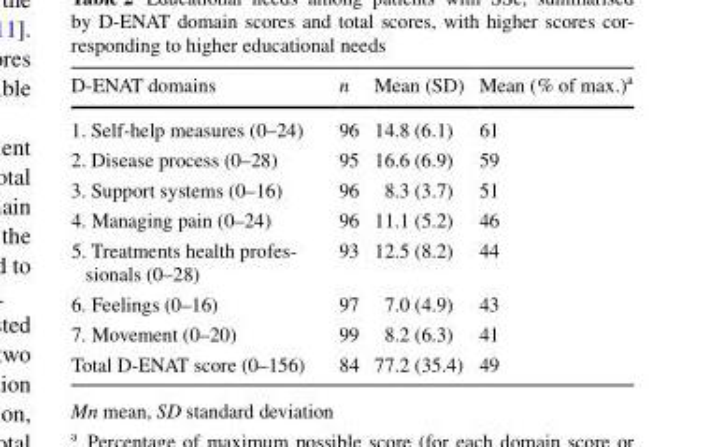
<table><thead><tr><td>D-ENAT domains</td><td>n</td><td>Mean (SD)</td><td>Mean (% of max.)<sup>a</sup></td></tr></thead><tbody><tr><td>1. Self-help measures (0–24)</td><td>96</td><td>14.8 (6.1)</td><td>61</td></tr><tr><td>2. Disease process (0–28)</td><td>95</td><td>16.6 (6.9)</td><td>59</td></tr><tr><td>3. Support systems (0–16)</td><td>96</td><td>8.3 (3.7)</td><td>51</td></tr><tr><td>4. Managing pain (0–24)</td><td>96</td><td>11.1 (5.2)</td><td>46</td></tr><tr><td>5. Treatments health profes- sionals (0–28)</td><td>93</td><td>12.5 (8.2)</td><td>44</td></tr><tr><td>6. Feelings (0–16)</td><td>97</td><td>7.0 (4.9)</td><td>43</td></tr><tr><td>7. Movement (0–20)</td><td>99</td><td>8.2 (6.3)</td><td>41</td></tr><tr><td>Total D-ENAT score (0–156)</td><td>84</td><td>77.2 (35.4)</td><td>49</td></tr></tbody></table>